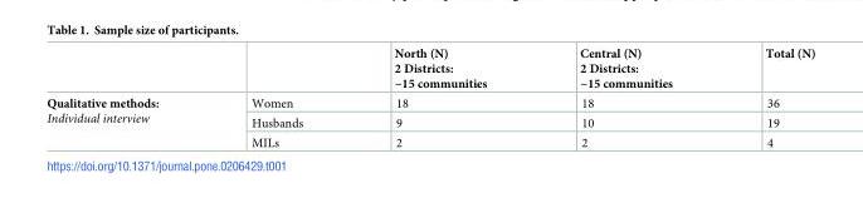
<table><thead><tr><td></td><td></td><td>North (N) 2 Districts: ~15 communities</td><td>Central (N) 2 Districts: ~15 communities</td><td>Total (N)</td></tr></thead><tbody><tr><td rowspan="3">Qualitative methods: Individual interview</td><td>Women</td><td>18</td><td>18</td><td>36</td></tr><tr><td>Husbands</td><td>9</td><td>10</td><td>19</td></tr><tr><td>MILs</td><td>2</td><td>2</td><td>4</td></tr></tbody></table>